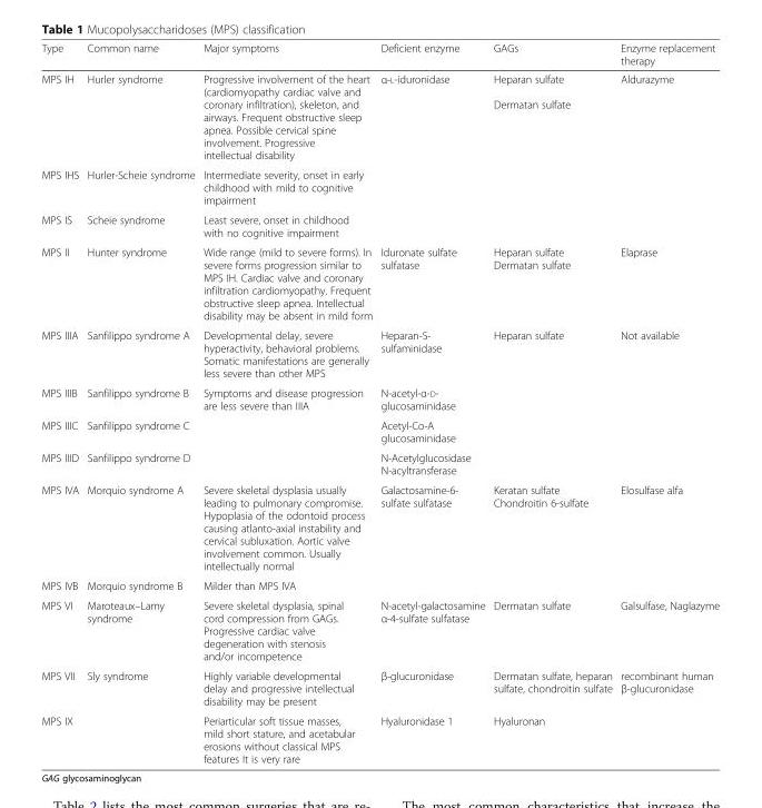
<table><thead><tr><td>Type</td><td>Common name</td><td>Major symptoms</td><td>Deficient enzyme</td><td>GAGs</td><td>Enzyme replacement therapy</td></tr></thead><tbody><tr><td>MPS IH</td><td>Hurler syndrome</td><td>Progressive involvement of the heart (cardiomyopathy cardiac valve and coronary infiltration), skeleton, and airways. Frequent obstructive sleep apnea. Possible cervical spine involvement. Progressive intellectual disability</td><td rowspan="3">α-L-iduronidase</td><td rowspan="3">Heparan sulfate Dermatan sulfate</td><td rowspan="3">Aldurazyme</td></tr><tr><td>MPS IHS</td><td>Hurler-Scheie syndrome</td><td>Intermediate severity, onset in early childhood with mild to cognitive impairment</td></tr><tr><td>MPS IS</td><td>Scheie syndrome</td><td>Least severe, onset in childhood with no cognitive impairment</td></tr><tr><td>MPS II</td><td>Hunter syndrome</td><td>Wide range (mild to severe forms). In severe forms progression similar to MPS IH. Cardiac valve and coronary infiltration cardiomyopathy. Frequent obstructive sleep apnea. Intellectual disability may be absent in mild form</td><td>Iduronate sulfate sulfatase</td><td>Heparan sulfate Dermatan sulfate</td><td>Elaprase</td></tr><tr><td>MPS IIIA</td><td>Sanfilippo syndrome A</td><td>Developmental delay, severe hyperactivity, behavioral problems. Somatic manifestations are generally less severe than other MPS</td><td>Heparan-S- sulfaminidase</td><td rowspan="4">Heparan sulfate</td><td rowspan="4">Not available</td></tr><tr><td>MPS IIIB</td><td>Sanfilippo syndrome B</td><td rowspan="3">Symptoms and disease progression are less severe than IIIA</td><td>N-acetyl-α-D- glucosaminidase</td></tr><tr><td>MPS IIIC</td><td>Sanfilippo syndrome C</td><td>Acetyl-Co-A glucosaminidase</td></tr><tr><td>MPS IIID</td><td>Sanfilippo syndrome D</td><td>N-Acetylglucosidase N-acyltransferase</td></tr><tr><td>MPS IVA</td><td>Morquio syndrome A</td><td>Severe skeletal dysplasia usually leading to pulmonary compromise. Hypoplasia of the odontoid process causing atlanto-axial instability and cervical subluxation. Aortic valve involvement common. Usually intellectually normal</td><td rowspan="2">Galactosamine-6- sulfate sulfatase</td><td rowspan="2">Keratan sulfate Chondroitin 6-sulfate</td><td rowspan="2">Elosulfase alfa</td></tr><tr><td>MPS IVB</td><td>Morquio syndrome B</td><td>Milder than MPS IVA</td></tr><tr><td>MPS VI</td><td>Maroteaux–Lamy syndrome</td><td>Severe skeletal dysplasia, spinal cord compression from GAGs. Progressive cardiac valve degeneration with stenosis and/or incompetence</td><td>N-acetyl-galactosamine α-4-sulfate sulfatase</td><td>Dermatan sulfate</td><td>Galsulfase, Naglazyme</td></tr><tr><td>MPS VII</td><td>Sly syndrome</td><td>Highly variable developmental delay and progressive intellectual disability may be present</td><td>β-glucuronidase</td><td>Dermatan sulfate, heparan sulfate, chondroitin sulfate</td><td>recombinant human β-glucuronidase</td></tr><tr><td>MPS IX</td><td></td><td>Periarticular soft tissue masses, mild short stature, and acetabular erosions without classical MPS features It is very rare</td><td>Hyaluronidase 1</td><td>Hyaluronan</td><td></td></tr></tbody></table>